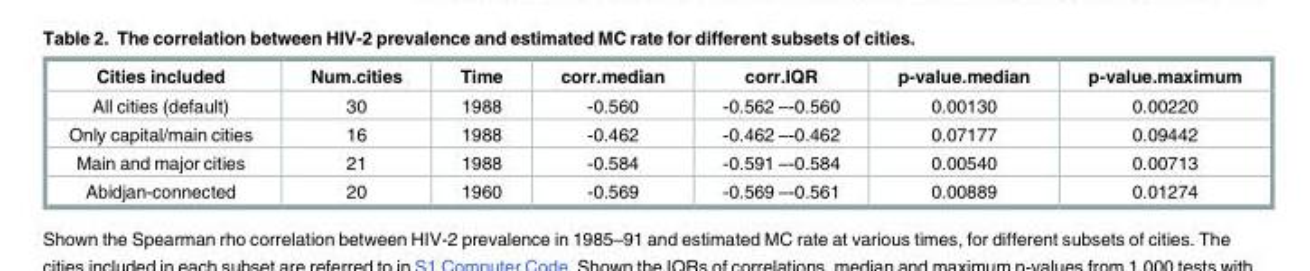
<table><thead><tr><td>Cities included</td><td>Num.cities</td><td>Time</td><td>corr.median</td><td>corr.IQR</td><td>p-value.median</td><td>p-value.maximum</td></tr></thead><tbody><tr><td>All cities (default)</td><td>30</td><td>1988</td><td>-0.560</td><td>-0.562 –-0.560</td><td>0.00130</td><td>0.00220</td></tr><tr><td>Only capital/main cities</td><td>16</td><td>1988</td><td>-0.462</td><td>-0.462 –-0.462</td><td>0.07177</td><td>0.09442</td></tr><tr><td>Main and major cities</td><td>21</td><td>1988</td><td>-0.584</td><td>-0.591 –-0.584</td><td>0.00540</td><td>0.00713</td></tr><tr><td>Abidjan-connected</td><td>20</td><td>1960</td><td>-0.569</td><td>-0.569 –-0.561</td><td>0.00889</td><td>0.01274</td></tr></tbody></table>